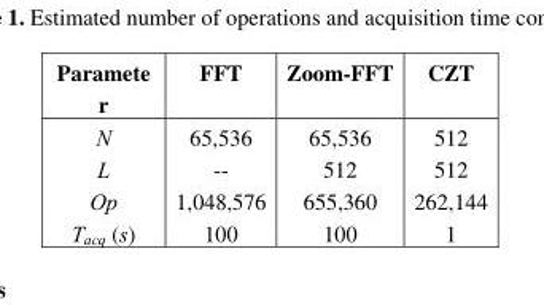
<table><thead><tr><td>Paramete r</td><td>FFT</td><td>Zoom-FFT</td><td>CZT</td></tr></thead><tbody><tr><td>N</td><td>65,536</td><td>65,536</td><td>512</td></tr><tr><td>L</td><td>--</td><td>512</td><td>512</td></tr><tr><td>Op</td><td>1,048,576</td><td>655,360</td><td>262,144</td></tr><tr><td>T<sub>acq</sub> (s)</td><td>100</td><td>100</td><td>1</td></tr></tbody></table>